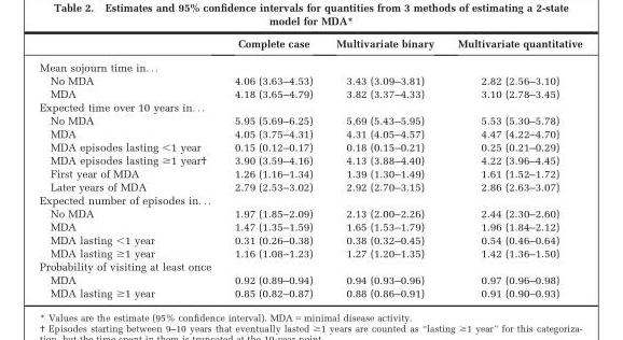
<table><thead><tr><td></td><td>Complete case</td><td>Multivariate binary</td><td>Multivariate quantitative</td></tr></thead><tbody><tr><td colspan="4">Mean sojourn time in. . .</td></tr><tr><td>No MDA</td><td>4.06 (3.63–4.53)</td><td>3.43 (3.09–3.81)</td><td>2.82 (2.56–3.10)</td></tr><tr><td>MDA</td><td>4.18 (3.65–4.79)</td><td>3.82 (3.37–4.33)</td><td>3.10 (2.78–3.45)</td></tr><tr><td colspan="4">Expected time over 10 years in. . .</td></tr><tr><td>No MDA</td><td>5.95 (5.69–6.25)</td><td>5.69 (5.43–5.95)</td><td>5.53 (5.30–5.78)</td></tr><tr><td>MDA</td><td>4.05 (3.75–4.31)</td><td>4.31 (4.05–4.57)</td><td>4.47 (4.22–4.70)</td></tr><tr><td>MDA episodes lasting &lt;1 year</td><td>0.15 (0.12–0.17)</td><td>0.18 (0.15–0.21)</td><td>0.25 (0.21–0.29)</td></tr><tr><td>MDA episodes lasting $1 year†</td><td>3.90 (3.59–4.16)</td><td>4.13 (3.88–4.40)</td><td>4.22 (3.96–4.45)</td></tr><tr><td>First year of MDA</td><td>1.26 (1.16–1.34)</td><td>1.39 (1.30–1.49)</td><td>1.61 (1.52–1.72)</td></tr><tr><td>Later years of MDA</td><td>2.79 (2.53–3.02)</td><td>2.92 (2.70–3.15)</td><td>2.86 (2.63–3.07)</td></tr><tr><td colspan="4">Expected number of episodes in. . .</td></tr><tr><td>No MDA</td><td>1.97 (1.85–2.09)</td><td>2.13 (2.00–2.26)</td><td>2.44 (2.30–2.60)</td></tr><tr><td>MDA</td><td>1.47 (1.35–1.59)</td><td>1.65 (1.53–1.79)</td><td>1.96 (1.84–2.12)</td></tr><tr><td>MDA lasting &lt;1 year</td><td>0.31 (0.26–0.38)</td><td>0.38 (0.32–0.45)</td><td>0.54 (0.46–0.64)</td></tr><tr><td>MDA lasting ≥1 year</td><td>1.16 (1.08–1.23)</td><td>1.27 (1.20–1.35)</td><td>1.42 (1.36–1.50)</td></tr><tr><td colspan="4">Probability of visiting at least once</td></tr><tr><td>MDA</td><td>0.92 (0.89–0.94)</td><td>0.94 (0.93–0.96)</td><td>0.97 (0.96–0.98)</td></tr><tr><td>MDA lasting ≥1 year</td><td>0.85 (0.82–0.87)</td><td>0.88 (0.86–0.91)</td><td>0.91 (0.90–0.93)</td></tr></tbody></table>